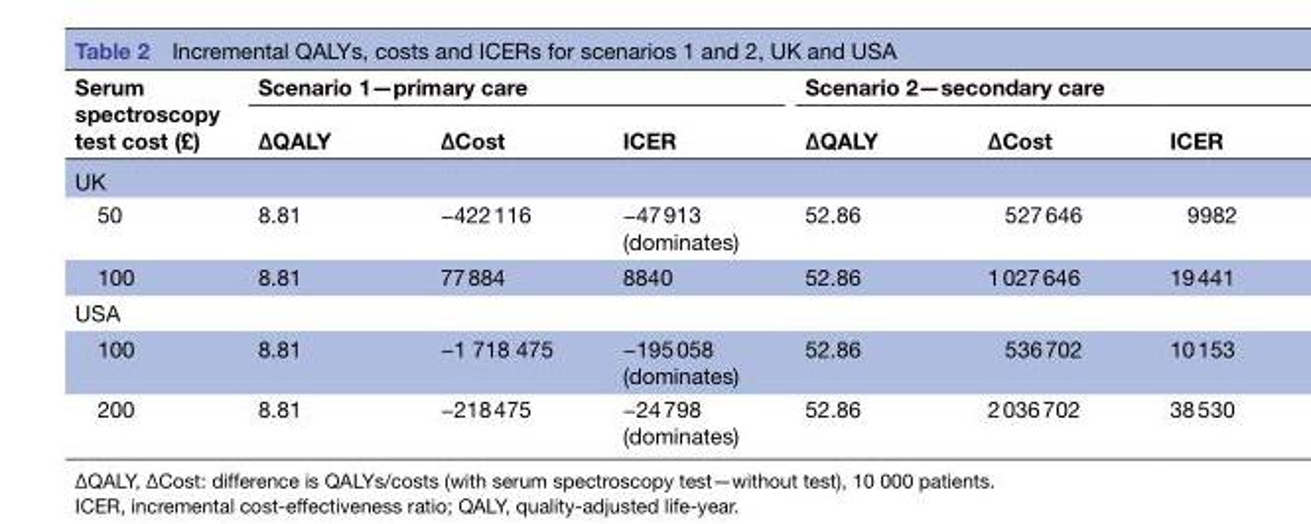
<table><thead><tr><td rowspan="2">Serum spectroscopy test cost (£)</td><td colspan="3">Scenario 1—primary care</td><td colspan="3">Scenario 2—secondary care</td></tr><tr><td>∆QALY</td><td>∆Cost</td><td>ICER</td><td>∆QALY</td><td>∆Cost</td><td>ICER</td></tr></thead><tbody><tr><td colspan="7">UK</td></tr><tr><td>50</td><td>8.81</td><td>−422 116</td><td>−47 913 (dominates)</td><td>52.86</td><td>527 646</td><td>9982</td></tr><tr><td>100</td><td>8.81</td><td>77 884</td><td>8840</td><td>52.86</td><td>1 027 646</td><td>19 441</td></tr><tr><td colspan="7">USA</td></tr><tr><td>100</td><td>8.81</td><td>−1 718 475</td><td>−195 058 (dominates)</td><td>52.86</td><td>536 702</td><td>10 153</td></tr><tr><td>200</td><td>8.81</td><td>−218 475</td><td>−24 798 (dominates)</td><td>52.86</td><td>2 036 702</td><td>38 530</td></tr></tbody></table>